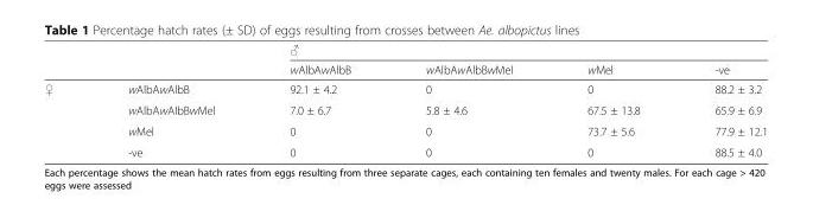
<table><thead><tr><td rowspan="2"></td><td rowspan="2"></td><td colspan="4">♂</td></tr><tr><td>wAlbAwAlbB</td><td>wAlbAwAlbBwMel</td><td>wMel</td><td>-ve</td></tr></thead><tbody><tr><td rowspan="4">♀</td><td>wAlbAwAlbB</td><td>92.1 ± 4.2</td><td>0</td><td>0</td><td>88.2 ± 3.2</td></tr><tr><td>wAlbAwAlbBwMel</td><td>7.0 ± 6.7</td><td>5.8 ± 4.6</td><td>67.5 ± 13.8</td><td>65.9 ± 6.9</td></tr><tr><td>wMel</td><td>0</td><td>0</td><td>73.7 ± 5.6</td><td>77.9 ± 12.1</td></tr><tr><td>-ve</td><td>0</td><td>0</td><td>0</td><td>88.5 ± 4.0</td></tr></tbody></table>